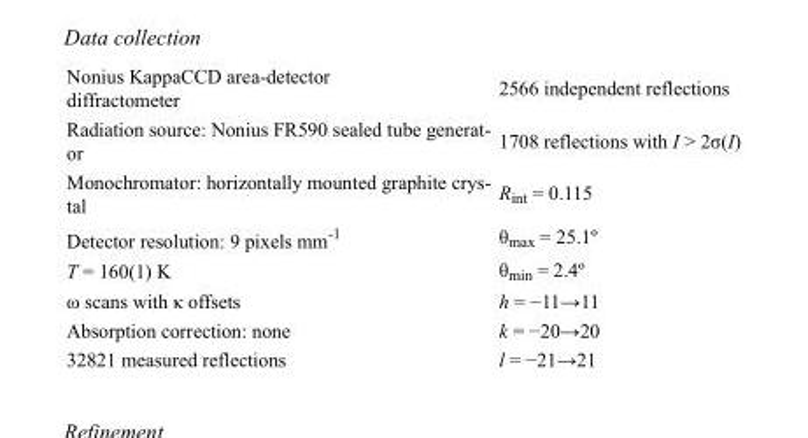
<table><tbody><tr><td>Nonius KappaCCD area-detector diffractometer</td><td>2566 independent reflections</td></tr><tr><td>Radiation source: Nonius FR590 sealed tube generat- or</td><td>1708 reflections with I &gt; 2σ(I)</td></tr><tr><td>Monochromator: horizontally mounted graphite crys- tal</td><td>R<sub>int</sub> = 0.115</td></tr><tr><td>Detector resolution: 9 pixels mm<sup>-1</sup></td><td>θ<sub>max</sub> = 25.1º</td></tr><tr><td>T = 160(1) K</td><td>θ<sub>min</sub> = 2.4º</td></tr><tr><td>ω scans with κ offsets</td><td>h = −11→11</td></tr><tr><td>Absorption correction: none</td><td>k = −20→20</td></tr><tr><td>32821 measured reflections</td><td>l = −21→21</td></tr></tbody></table>